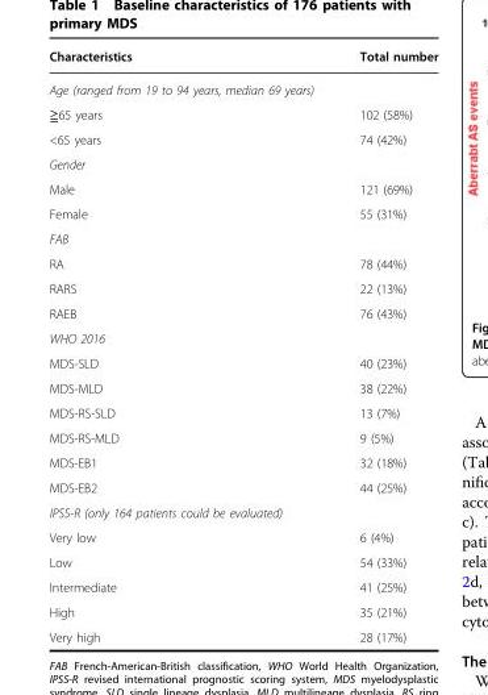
<table><thead><tr><td>Characteristics</td><td>Total number</td></tr></thead><tbody><tr><td colspan="2">Age (ranged from 19 to 94 years, median 69 years)</td></tr><tr><td>≧65 years</td><td>102 (58%)</td></tr><tr><td>&lt;65 years</td><td>74 (42%)</td></tr><tr><td colspan="2">Gender</td></tr><tr><td>Male</td><td>121 (69%)</td></tr><tr><td>Female</td><td>55 (31%)</td></tr><tr><td colspan="2">FAB</td></tr><tr><td>RA</td><td>78 (44%)</td></tr><tr><td>RARS</td><td>22 (13%)</td></tr><tr><td>RAEB</td><td>76 (43%)</td></tr><tr><td colspan="2">WHO 2016</td></tr><tr><td>MDS-SLD</td><td>40 (23%)</td></tr><tr><td>MDS-MLD</td><td>38 (22%)</td></tr><tr><td>MDS-RS-SLD</td><td>13 (7%)</td></tr><tr><td>MDS-RS-MLD</td><td>9 (5%)</td></tr><tr><td>MDS-EB1</td><td>32 (18%)</td></tr><tr><td>MDS-EB2</td><td>44 (25%)</td></tr><tr><td colspan="2">IPSS-R (only 164 patients could be evaluated)</td></tr><tr><td>Very low</td><td>6 (4%)</td></tr><tr><td>Low</td><td>54 (33%)</td></tr><tr><td>Intermediate</td><td>41 (25%)</td></tr><tr><td>High</td><td>35 (21%)</td></tr><tr><td>Very high</td><td>28 (17%)</td></tr></tbody></table>